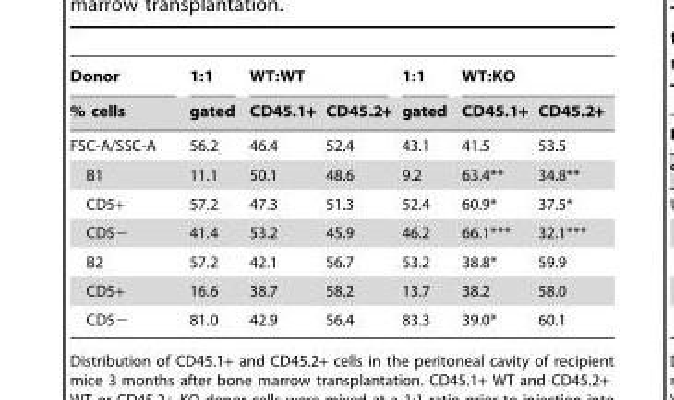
<table><thead><tr><td rowspan="2">Donor % cells</td><td rowspan="2">1:1 gated</td><td colspan="2">WT:WT</td><td rowspan="2">1:1 gated</td><td colspan="2">WT:KO</td></tr><tr><td>CD45.1+</td><td>CD45.2+</td><td>CD45.1+</td><td>CD45.2+</td></tr></thead><tbody><tr><td>FSC-A/SSC-A</td><td>56.2</td><td>46.4</td><td>52.4</td><td>43.1</td><td>41.5</td><td>53.5</td></tr><tr><td>B1</td><td>11.1</td><td>50.1</td><td>48.6</td><td>9.2</td><td>63.4**</td><td>34.8**</td></tr><tr><td>CD5+</td><td>57.2</td><td>47.3</td><td>51.3</td><td>52.4</td><td>60.9*</td><td>37.5*</td></tr><tr><td>CD5−</td><td>41.4</td><td>53.2</td><td>45.9</td><td>46.2</td><td>66.1***</td><td>32.1***</td></tr><tr><td>B2</td><td>57.2</td><td>42.1</td><td>56.7</td><td>53.2</td><td>38.8*</td><td>59.9</td></tr><tr><td>CD5+</td><td>16.6</td><td>38.7</td><td>58.2</td><td>13.7</td><td>38.2</td><td>58.0</td></tr><tr><td>CD5−</td><td>81.0</td><td>42.9</td><td>56.4</td><td>83.3</td><td>39.0*</td><td>60.1</td></tr></tbody></table>